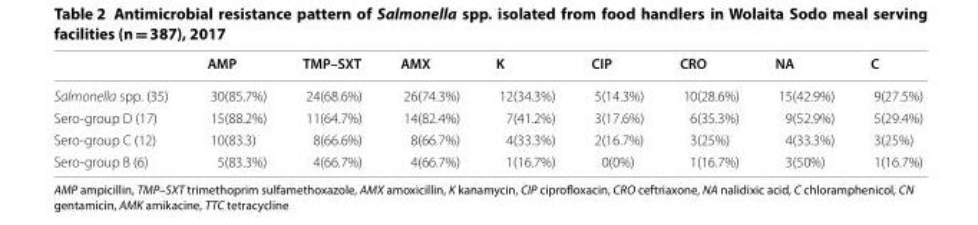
<table><thead><tr><td></td><td>AMP</td><td>TMP–SXT</td><td>AMX</td><td>K</td><td>CIP</td><td>CRO</td><td>NA</td><td>C</td></tr></thead><tbody><tr><td>Salmonella spp. (35)</td><td>30(85.7%)</td><td>24(68.6%)</td><td>26(74.3%)</td><td>12(34.3%)</td><td>5(14.3%)</td><td>10(28.6%)</td><td>15(42.9%)</td><td>9(27.5%)</td></tr><tr><td>Sero-group D (17)</td><td>15(88.2%)</td><td>11(64.7%)</td><td>14(82.4%)</td><td>7(41.2%)</td><td>3(17.6%)</td><td>6(35.3%)</td><td>9(52.9%)</td><td>5(29.4%)</td></tr><tr><td>Sero-group C (12)</td><td>10(83.3)</td><td>8(66.6%)</td><td>8(66.7%)</td><td>4(33.3%)</td><td>2(16.7%)</td><td>3(25%)</td><td>4(33.3%)</td><td>3(25%)</td></tr><tr><td>Sero-group B (6)</td><td>5(83.3%)</td><td>4(66.7%)</td><td>4(66.7%)</td><td>1(16.7%)</td><td>0(0%)</td><td>1(16.7%)</td><td>3(50%)</td><td>1(16.7%)</td></tr></tbody></table>